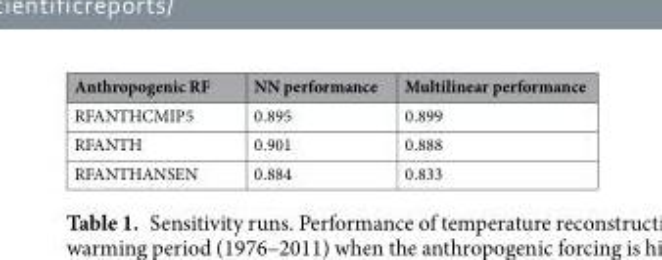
<table><thead><tr><td>Anthropogenic RF</td><td>NN performance</td><td>Multilinear performance</td></tr></thead><tbody><tr><td>RFANTHCMIP5</td><td>0.895</td><td>0.899</td></tr><tr><td>RFANTH</td><td>0.901</td><td>0.888</td></tr><tr><td>RFANTHANSEN</td><td>0.884</td><td>0.833</td></tr></tbody></table>